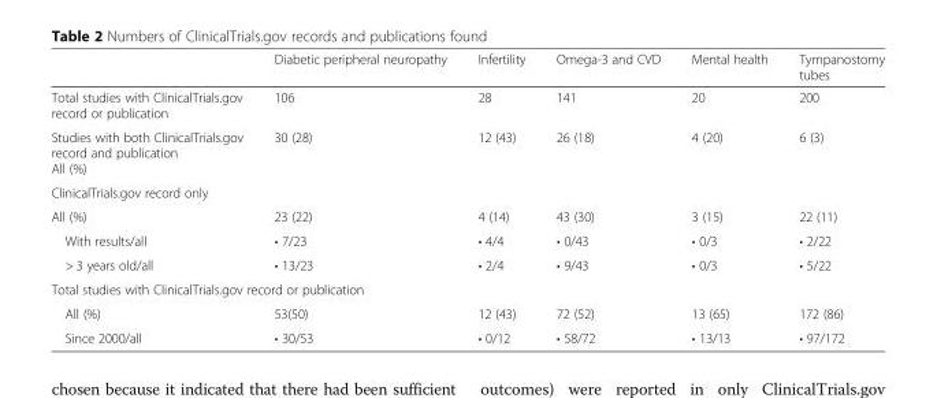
<table><thead><tr><td></td><td>Diabetic peripheral neuropathy</td><td>Infertility</td><td>Omega-3 and CVD</td><td>Mental health</td><td>Tympanostomy tubes</td></tr></thead><tbody><tr><td>Total studies with ClinicalTrials.gov record or publication</td><td>106</td><td>28</td><td>141</td><td>20</td><td>200</td></tr><tr><td>Studies with both ClinicalTrials.gov record and publication All (%)</td><td>30 (28)</td><td>12 (43)</td><td>26 (18)</td><td>4 (20)</td><td>6 (3)</td></tr><tr><td colspan="6">ClinicalTrials.gov record only</td></tr><tr><td>All (%)</td><td>23 (22)</td><td>4 (14)</td><td>43 (30)</td><td>3 (15)</td><td>22 (11)</td></tr><tr><td>With results/all</td><td>• 7/23</td><td>• 4/4</td><td>• 0/43</td><td>• 0/3</td><td>• 2/22</td></tr><tr><td>&gt; 3 years old/all</td><td>• 13/23</td><td>• 2/4</td><td>• 9/43</td><td>• 0/3</td><td>• 5/22</td></tr><tr><td colspan="6">Total studies with ClinicalTrials.gov record or publication</td></tr><tr><td>All (%)</td><td>53(50)</td><td>12 (43)</td><td>72 (52)</td><td>13 (65)</td><td>172 (86)</td></tr><tr><td>Since 2000/all</td><td>• 30/53</td><td>• 0/12</td><td>• 58/72</td><td>• 13/13</td><td>• 97/172</td></tr></tbody></table>